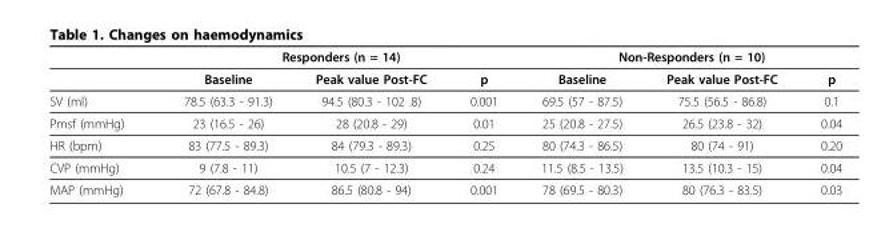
<table><thead><tr><td rowspan="2"></td><td colspan="3">Responders (n = 14)</td><td colspan="3">Non-Responders (n = 10)</td></tr><tr><td>Baseline</td><td>Peak value Post-FC</td><td>p</td><td>Baseline</td><td>Peak value Post-FC</td><td>p</td></tr></thead><tbody><tr><td>SV (ml)</td><td>78.5 (63.3 - 91.3)</td><td>94.5 (80.3 - 102 .8)</td><td>0.001</td><td>69.5 (57 - 87.5)</td><td>75.5 (56.5 - 86.8)</td><td>0.1</td></tr><tr><td>Pmsf (mmHg)</td><td>23 (16.5 - 26)</td><td>28 (20.8 - 29)</td><td>0.01</td><td>25 (20.8 - 27.5)</td><td>26.5 (23.8 - 32)</td><td>0.04</td></tr><tr><td>HR (bpm)</td><td>83 (77.5 - 89.3)</td><td>84 (79.3 - 89.3)</td><td>0.25</td><td>80 (74.3 - 86.5)</td><td>80 (74 - 91)</td><td>0.20</td></tr><tr><td>CVP (mmHg)</td><td>9 (7.8 - 11)</td><td>10.5 (7 - 12.3)</td><td>0.24</td><td>11.5 (8.5 - 13.5)</td><td>13.5 (10.3 - 15)</td><td>0.04</td></tr><tr><td>MAP (mmHg)</td><td>72 (67.8 - 84.8)</td><td>86.5 (80.8 - 94)</td><td>0.001</td><td>78 (69.5 - 80.3)</td><td>80 (76.3 - 83.5)</td><td>0.03</td></tr></tbody></table>